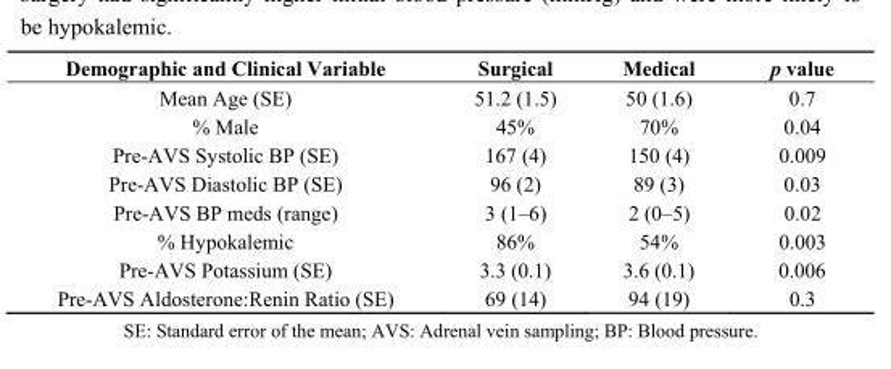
<table><thead><tr><td>Demographic and Clinical Variable</td><td>Surgical</td><td>Medical</td><td>p value</td></tr></thead><tbody><tr><td>Mean Age (SE)</td><td>51.2 (1.5)</td><td>50 (1.6)</td><td>0.7</td></tr><tr><td>% Male</td><td>45%</td><td>70%</td><td>0.04</td></tr><tr><td>Pre-AVS Systolic BP (SE)</td><td>167 (4)</td><td>150 (4)</td><td>0.009</td></tr><tr><td>Pre-AVS Diastolic BP (SE)</td><td>96 (2)</td><td>89 (3)</td><td>0.03</td></tr><tr><td>Pre-AVS BP meds (range)</td><td>3 (1–6)</td><td>2 (0–5)</td><td>0.02</td></tr><tr><td>% Hypokalemic</td><td>86%</td><td>54%</td><td>0.003</td></tr><tr><td>Pre-AVS Potassium (SE)</td><td>3.3 (0.1)</td><td>3.6 (0.1)</td><td>0.006</td></tr><tr><td>Pre-AVS Aldosterone:Renin Ratio (SE)</td><td>69 (14)</td><td>94 (19)</td><td>0.3</td></tr></tbody></table>